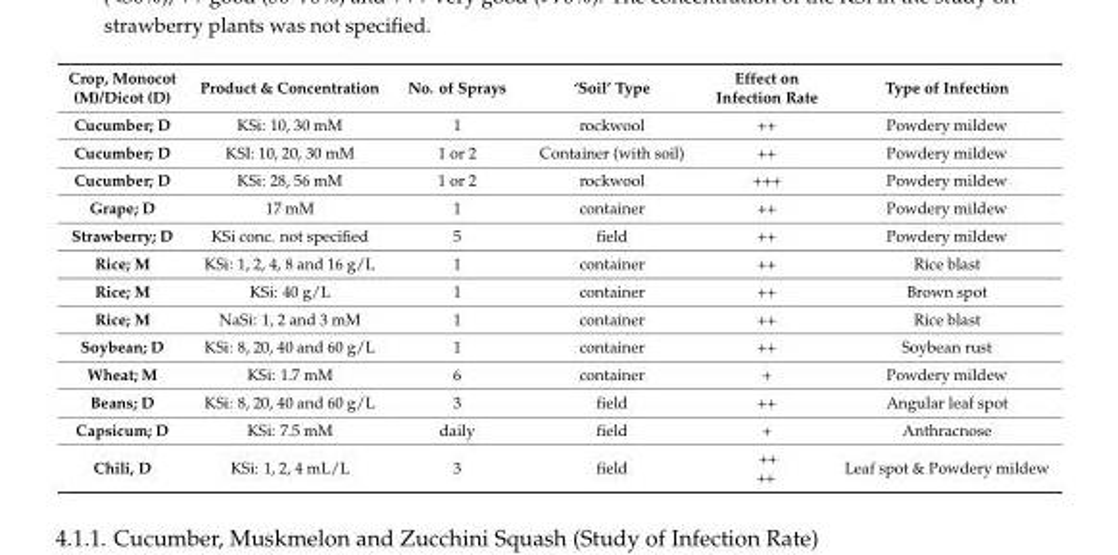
<table><thead><tr><td>Crop, Monocot (M)/Dicot (D)</td><td>Product &amp; Concentration</td><td>No. of Sprays</td><td>‘Soil’ Type</td><td>Effect on Infection Rate</td><td>Type of Infection</td></tr></thead><tbody><tr><td>Cucumber; D</td><td>KSi: 10, 30 mM</td><td>1</td><td>rockwool</td><td>++</td><td>Powdery mildew</td></tr><tr><td>Cucumber; D</td><td>KSI: 10, 20, 30 mM</td><td>1 or 2</td><td>Container (with soil)</td><td>++</td><td>Powdery mildew</td></tr><tr><td>Cucumber; D</td><td>KSi: 28, 56 mM</td><td>1 or 2</td><td>rockwool</td><td>+++</td><td>Powdery mildew</td></tr><tr><td>Grape; D</td><td>17 mM</td><td>1</td><td>container</td><td>++</td><td>Powdery mildew</td></tr><tr><td>Strawberry; D</td><td>KSi conc. not specified</td><td>5</td><td>field</td><td>++</td><td>Powdery mildew</td></tr><tr><td>Rice; M</td><td>KSi: 1, 2, 4, 8 and 16 g/L</td><td>1</td><td>container</td><td>++</td><td>Rice blast</td></tr><tr><td>Rice; M</td><td>KSi: 40 g/L</td><td>1</td><td>container</td><td>++</td><td>Brown spot</td></tr><tr><td>Rice; M</td><td>NaSi: 1, 2 and 3 mM</td><td>1</td><td>container</td><td>++</td><td>Rice blast</td></tr><tr><td>Soybean; D</td><td>KSi: 8, 20, 40 and 60 g/L</td><td>1</td><td>container</td><td>++</td><td>Soybean rust</td></tr><tr><td>Wheat; M</td><td>KSi: 1.7 mM</td><td>6</td><td>container</td><td>+</td><td>Powdery mildew</td></tr><tr><td>Beans; D</td><td>KSi: 8, 20, 40 and 60 g/L</td><td>3</td><td>field</td><td>++</td><td>Angular leaf spot</td></tr><tr><td>Capsicum; D</td><td>KSi: 7.5 mM</td><td>daily</td><td>field</td><td>+</td><td>Anthracnose</td></tr><tr><td>Chili, D</td><td>KSi: 1, 2, 4 mL/L</td><td>3</td><td>field</td><td>++ ++</td><td>Leaf spot &amp; Powdery mildew</td></tr></tbody></table>